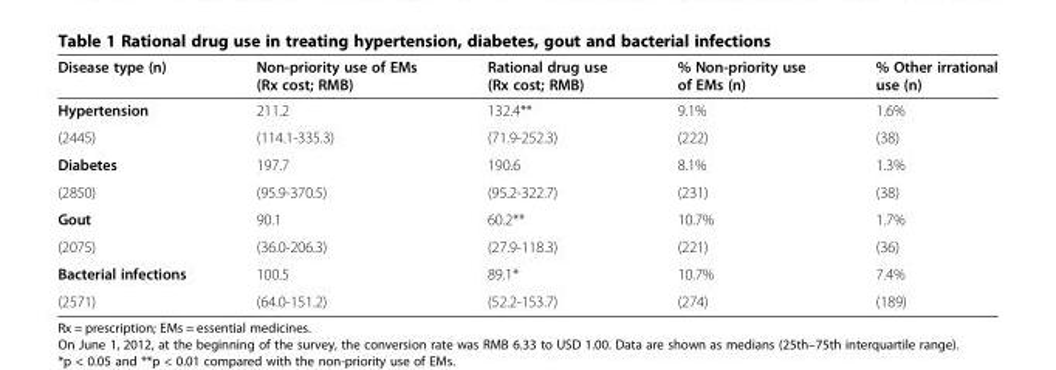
<table><thead><tr><td>Disease type (n)</td><td>Non-priority use of EMs (Rx cost; RMB)</td><td>Rational drug use (Rx cost; RMB)</td><td>% Non-priority use of EMs (n)</td><td>% Other irrational use (n)</td></tr></thead><tbody><tr><td>Hypertension</td><td>211.2</td><td>132.4**</td><td>9.1%</td><td>1.6%</td></tr><tr><td>(2445)</td><td>(114.1-335.3)</td><td>(71.9-252.3)</td><td>(222)</td><td>(38)</td></tr><tr><td>Diabetes</td><td>197.7</td><td>190.6</td><td>8.1%</td><td>1.3%</td></tr><tr><td>(2850)</td><td>(95.9-370.5)</td><td>(95.2-322.7)</td><td>(231)</td><td>(38)</td></tr><tr><td>Gout</td><td>90.1</td><td>60.2**</td><td>10.7%</td><td>1.7%</td></tr><tr><td>(2075)</td><td>(36.0-206.3)</td><td>(27.9-118.3)</td><td>(221)</td><td>(36)</td></tr><tr><td>Bacterial infections</td><td>100.5</td><td>89.1*</td><td>10.7%</td><td>7.4%</td></tr><tr><td>(2571)</td><td>(64.0-151.2)</td><td>(52.2-153.7)</td><td>(274)</td><td>(189)</td></tr></tbody></table>